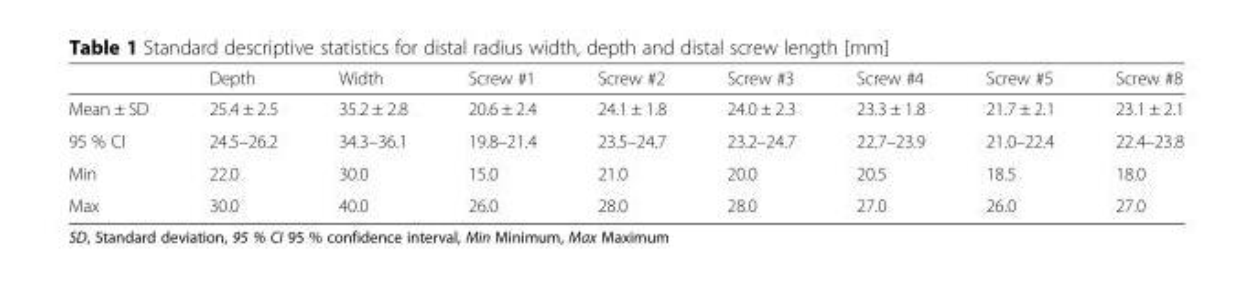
<table><thead><tr><td></td><td>Depth</td><td>Width</td><td>Screw #1</td><td>Screw #2</td><td>Screw #3</td><td>Screw #4</td><td>Screw #5</td><td>Screw #8</td></tr></thead><tbody><tr><td>Mean ± SD</td><td>25.4 ± 2.5</td><td>35.2 ± 2.8</td><td>20.6 ± 2.4</td><td>24.1 ± 1.8</td><td>24.0 ± 2.3</td><td>23.3 ± 1.8</td><td>21.7 ± 2.1</td><td>23.1 ± 2.1</td></tr><tr><td>95 % CI</td><td>24.5–26.2</td><td>34.3–36.1</td><td>19.8–21.4</td><td>23.5–24.7</td><td>23.2–24.7</td><td>22.7–23.9</td><td>21.0–22.4</td><td>22.4–23.8</td></tr><tr><td>Min</td><td>22.0</td><td>30.0</td><td>15.0</td><td>21.0</td><td>20.0</td><td>20.5</td><td>18.5</td><td>18.0</td></tr><tr><td>Max</td><td>30.0</td><td>40.0</td><td>26.0</td><td>28.0</td><td>28.0</td><td>27.0</td><td>26.0</td><td>27.0</td></tr></tbody></table>